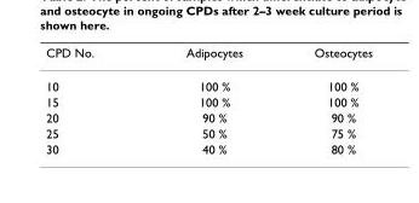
<table><thead><tr><td>CPD No.</td><td>Adipocytes</td><td>Osteocytes</td></tr></thead><tbody><tr><td>10</td><td>100 %</td><td>100 %</td></tr><tr><td>15</td><td>100 %</td><td>100 %</td></tr><tr><td>20</td><td>90 %</td><td>90 %</td></tr><tr><td>25</td><td>50 %</td><td>75 %</td></tr><tr><td>30</td><td>40 %</td><td>80 %</td></tr></tbody></table>